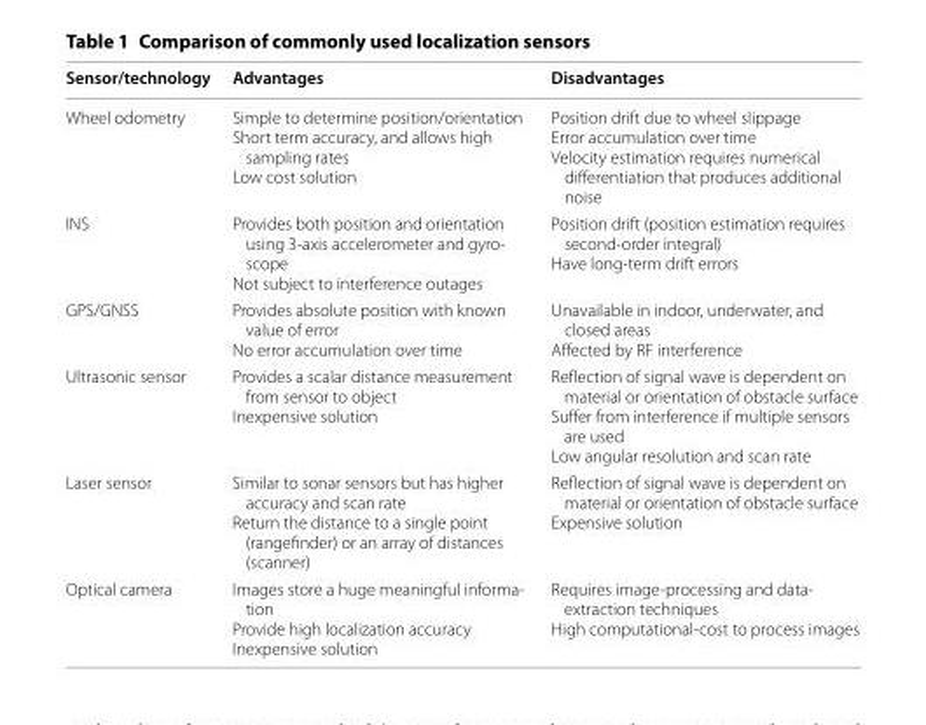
<table><thead><tr><td>Sensor/technology</td><td>Advantages</td><td>Disadvantages</td></tr></thead><tbody><tr><td>Wheel odometry</td><td>Simple to determine position/orientation Short term accuracy, and allows high sampling rates Low cost solution</td><td>Position drift due to wheel slippage Error accumulation over time Velocity estimation requires numerical differentiation that produces additional noise</td></tr><tr><td>INS</td><td>Provides both position and orientation using 3-axis accelerometer and gyro- scope Not subject to interference outages</td><td>Position drift (position estimation requires second-order integral) Have long-term drift errors</td></tr><tr><td>GPS/GNSS</td><td>Provides absolute position with known value of error No error accumulation over time</td><td>Unavailable in indoor, underwater, and closed areas Affected by RF interference</td></tr><tr><td>Ultrasonic sensor</td><td>Provides a scalar distance measurement from sensor to object Inexpensive solution</td><td>Reflection of signal wave is dependent on material or orientation of obstacle surface Suffer from interference if multiple sensors are used Low angular resolution and scan rate</td></tr><tr><td>Laser sensor</td><td>Similar to sonar sensors but has higher accuracy and scan rate Return the distance to a single point (rangefinder) or an array of distances (scanner)</td><td>Reflection of signal wave is dependent on material or orientation of obstacle surface Expensive solution</td></tr><tr><td>Optical camera</td><td>Images store a huge meaningful informa- tion Provide high localization accuracy Inexpensive solution</td><td>Requires image-processing and data- extraction techniques High computational-cost to process images</td></tr></tbody></table>